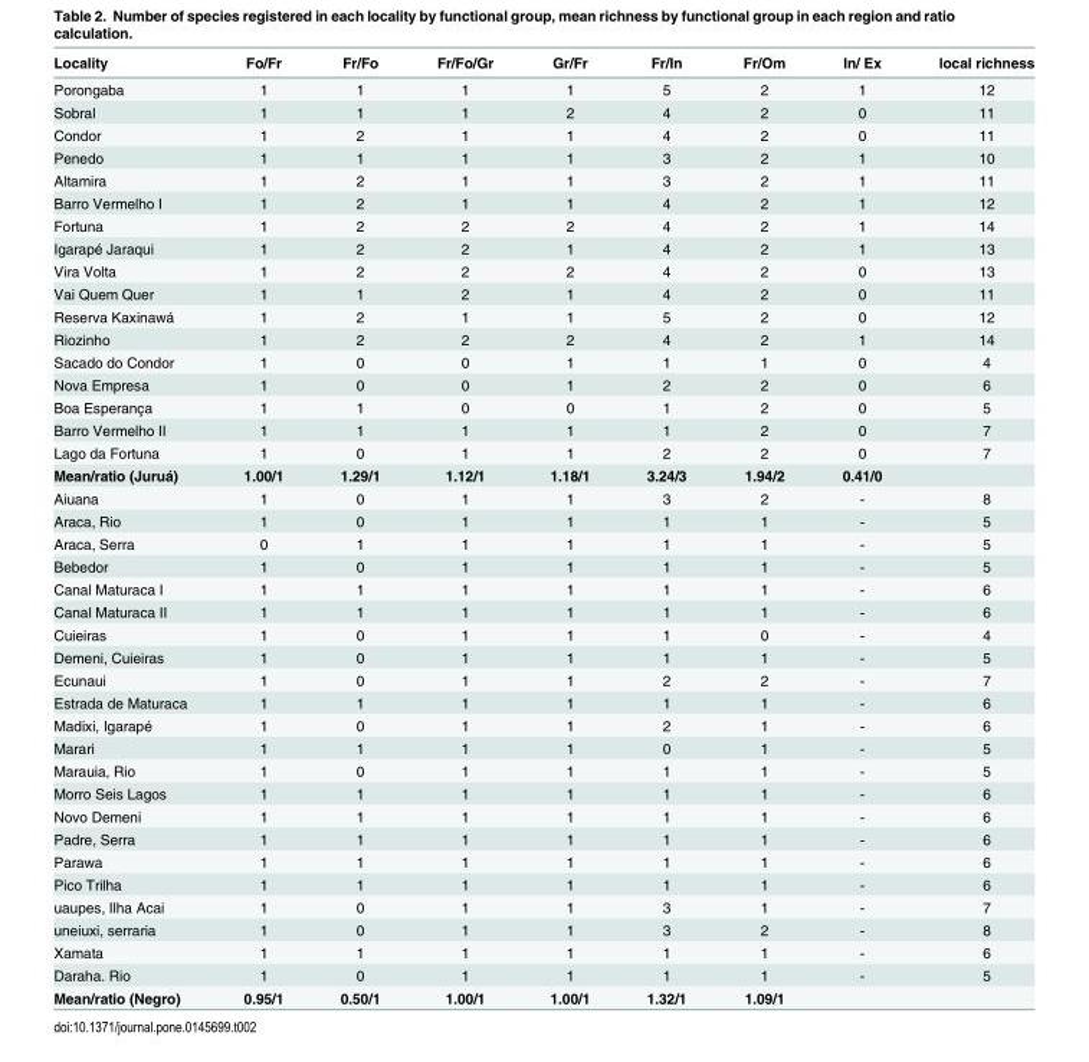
<table><thead><tr><td>Locality</td><td>Fo/Fr</td><td>Fr/Fo</td><td>Fr/Fo/Gr</td><td>Gr/Fr</td><td>Fr/In</td><td>Fr/Om</td><td>In/ Ex</td><td>local richness</td></tr></thead><tbody><tr><td>Porongaba</td><td>1</td><td>1</td><td>1</td><td>1</td><td>5</td><td>2</td><td>1</td><td>12</td></tr><tr><td>Sobral</td><td>1</td><td>1</td><td>1</td><td>2</td><td>4</td><td>2</td><td>0</td><td>11</td></tr><tr><td>Condor</td><td>1</td><td>2</td><td>1</td><td>1</td><td>4</td><td>2</td><td>0</td><td>11</td></tr><tr><td>Penedo</td><td>1</td><td>1</td><td>1</td><td>1</td><td>3</td><td>2</td><td>1</td><td>10</td></tr><tr><td>Altamira</td><td>1</td><td>2</td><td>1</td><td>1</td><td>3</td><td>2</td><td>1</td><td>11</td></tr><tr><td>Barro Vermelho I</td><td>1</td><td>2</td><td>1</td><td>1</td><td>4</td><td>2</td><td>1</td><td>12</td></tr><tr><td>Fortuna</td><td>1</td><td>2</td><td>2</td><td>2</td><td>4</td><td>2</td><td>1</td><td>14</td></tr><tr><td>Igarapé Jaraqui</td><td>1</td><td>2</td><td>2</td><td>1</td><td>4</td><td>2</td><td>1</td><td>13</td></tr><tr><td>Vira Volta</td><td>1</td><td>2</td><td>2</td><td>2</td><td>4</td><td>2</td><td>0</td><td>13</td></tr><tr><td>Vai Quem Quer</td><td>1</td><td>1</td><td>2</td><td>1</td><td>4</td><td>2</td><td>0</td><td>11</td></tr><tr><td>Reserva Kaxinawá</td><td>1</td><td>2</td><td>1</td><td>1</td><td>5</td><td>2</td><td>0</td><td>12</td></tr><tr><td>Riozinho</td><td>1</td><td>2</td><td>2</td><td>2</td><td>4</td><td>2</td><td>1</td><td>14</td></tr><tr><td>Sacado do Condor</td><td>1</td><td>0</td><td>0</td><td>1</td><td>1</td><td>1</td><td>0</td><td>4</td></tr><tr><td>Nova Empresa</td><td>1</td><td>0</td><td>0</td><td>1</td><td>2</td><td>2</td><td>0</td><td>6</td></tr><tr><td>Boa Esperança</td><td>1</td><td>1</td><td>0</td><td>0</td><td>1</td><td>2</td><td>0</td><td>5</td></tr><tr><td>Barro Vermelho II</td><td>1</td><td>1</td><td>1</td><td>1</td><td>1</td><td>2</td><td>0</td><td>7</td></tr><tr><td>Lago da Fortuna</td><td>1</td><td>0</td><td>1</td><td>1</td><td>2</td><td>2</td><td>0</td><td>7</td></tr><tr><td>Mean/ratio (Juruá)</td><td>1.00/1</td><td>1.29/1</td><td>1.12/1</td><td>1.18/1</td><td>3.24/3</td><td>1.94/2</td><td>0.41/0</td><td></td></tr><tr><td>Aiuana</td><td>1</td><td>0</td><td>1</td><td>1</td><td>3</td><td>2</td><td>-</td><td>8</td></tr><tr><td>Araca, Rio</td><td>1</td><td>0</td><td>1</td><td>1</td><td>1</td><td>1</td><td>-</td><td>5</td></tr><tr><td>Araca, Serra</td><td>0</td><td>1</td><td>1</td><td>1</td><td>1</td><td>1</td><td>-</td><td>5</td></tr><tr><td>Bebedor</td><td>1</td><td>0</td><td>1</td><td>1</td><td>1</td><td>1</td><td>-</td><td>5</td></tr><tr><td>Canal Maturaca I</td><td>1</td><td>1</td><td>1</td><td>1</td><td>1</td><td>1</td><td>-</td><td>6</td></tr><tr><td>Canal Maturaca II</td><td>1</td><td>1</td><td>1</td><td>1</td><td>1</td><td>1</td><td>-</td><td>6</td></tr><tr><td>Cuieiras</td><td>1</td><td>0</td><td>1</td><td>1</td><td>1</td><td>0</td><td>-</td><td>4</td></tr><tr><td>Demeni, Cuieiras</td><td>1</td><td>0</td><td>1</td><td>1</td><td>1</td><td>1</td><td>-</td><td>5</td></tr><tr><td>Ecunaui</td><td>1</td><td>0</td><td>1</td><td>1</td><td>2</td><td>2</td><td>-</td><td>7</td></tr><tr><td>Estrada de Maturaca</td><td>1</td><td>1</td><td>1</td><td>1</td><td>1</td><td>1</td><td>-</td><td>6</td></tr><tr><td>Madixi, Igarapé</td><td>1</td><td>0</td><td>1</td><td>1</td><td>2</td><td>1</td><td>-</td><td>6</td></tr><tr><td>Marari</td><td>1</td><td>1</td><td>1</td><td>1</td><td>0</td><td>1</td><td>-</td><td>5</td></tr><tr><td>Marauia, Rio</td><td>1</td><td>0</td><td>1</td><td>1</td><td>1</td><td>1</td><td>-</td><td>5</td></tr><tr><td>Morro Seis Lagos</td><td>1</td><td>1</td><td>1</td><td>1</td><td>1</td><td>1</td><td>-</td><td>6</td></tr><tr><td>Novo Demeni</td><td>1</td><td>1</td><td>1</td><td>1</td><td>1</td><td>1</td><td>-</td><td>6</td></tr><tr><td>Padre, Serra</td><td>1</td><td>1</td><td>1</td><td>1</td><td>1</td><td>1</td><td>-</td><td>6</td></tr><tr><td>Parawa</td><td>1</td><td>1</td><td>1</td><td>1</td><td>1</td><td>1</td><td>-</td><td>6</td></tr><tr><td>Pico Trilha</td><td>1</td><td>1</td><td>1</td><td>1</td><td>1</td><td>1</td><td>-</td><td>6</td></tr><tr><td>uaupes, Ilha Acai</td><td>1</td><td>0</td><td>1</td><td>1</td><td>3</td><td>1</td><td>-</td><td>7</td></tr><tr><td>uneiuxi, serraria</td><td>1</td><td>0</td><td>1</td><td>1</td><td>3</td><td>2</td><td>-</td><td>8</td></tr><tr><td>Xamata</td><td>1</td><td>1</td><td>1</td><td>1</td><td>1</td><td>1</td><td>-</td><td>6</td></tr><tr><td>Daraha. Rio</td><td>1</td><td>0</td><td>1</td><td>1</td><td>1</td><td>1</td><td>-</td><td>5</td></tr><tr><td>Mean/ratio (Negro)</td><td>0.95/1</td><td>0.50/1</td><td>1.00/1</td><td>1.00/1</td><td>1.32/1</td><td>1.09/1</td><td></td><td></td></tr></tbody></table>